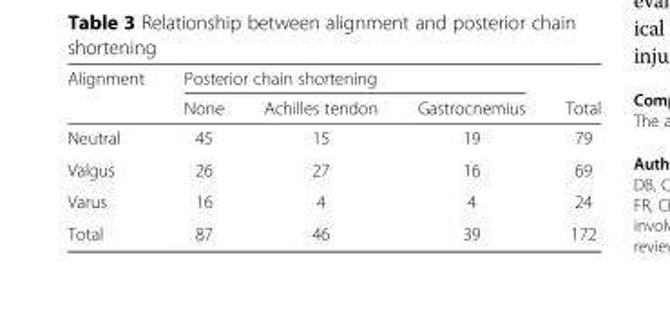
<table><thead><tr><td rowspan="2">Alignment</td><td colspan="3">Posterior chain shortening</td><td rowspan="2">Total</td></tr><tr><td>None</td><td>Achilles tendon</td><td>Gastrocnemius</td></tr></thead><tbody><tr><td>Neutral</td><td>45</td><td>15</td><td>19</td><td>79</td></tr><tr><td>Valgus</td><td>26</td><td>27</td><td>16</td><td>69</td></tr><tr><td>Varus</td><td>16</td><td>4</td><td>4</td><td>24</td></tr><tr><td>Total</td><td>87</td><td>46</td><td>39</td><td>172</td></tr></tbody></table>